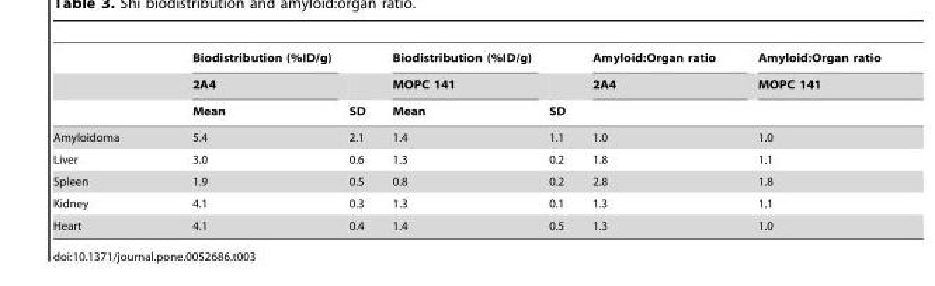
<table><thead><tr><td rowspan="3"></td><td rowspan="3">Biodistribution (%ID/g) 2A4 Mean</td><td rowspan="3">SD</td><td rowspan="3">Biodistribution (%ID/g) MOPC 141 Mean</td><td rowspan="3">SD</td><td rowspan="3">Amyloid:Organ ratio 2A4</td><td rowspan="3">Amyloid:Organ ratio MOPC 141</td></tr><tr></tr><tr></tr></thead><tbody><tr><td>Amyloidoma</td><td>5.4</td><td>2.1</td><td>1.4</td><td>1.1</td><td>1.0</td><td>1.0</td></tr><tr><td>Liver</td><td>3.0</td><td>0.6</td><td>1.3</td><td>0.2</td><td>1.8</td><td>1.1</td></tr><tr><td>Spleen</td><td>1.9</td><td>0.5</td><td>0.8</td><td>0.2</td><td>2.8</td><td>1.8</td></tr><tr><td>Kidney</td><td>4.1</td><td>0.3</td><td>1.3</td><td>0.1</td><td>1.3</td><td>1.1</td></tr><tr><td>Heart</td><td>4.1</td><td>0.4</td><td>1.4</td><td>0.5</td><td>1.3</td><td>1.0</td></tr></tbody></table>